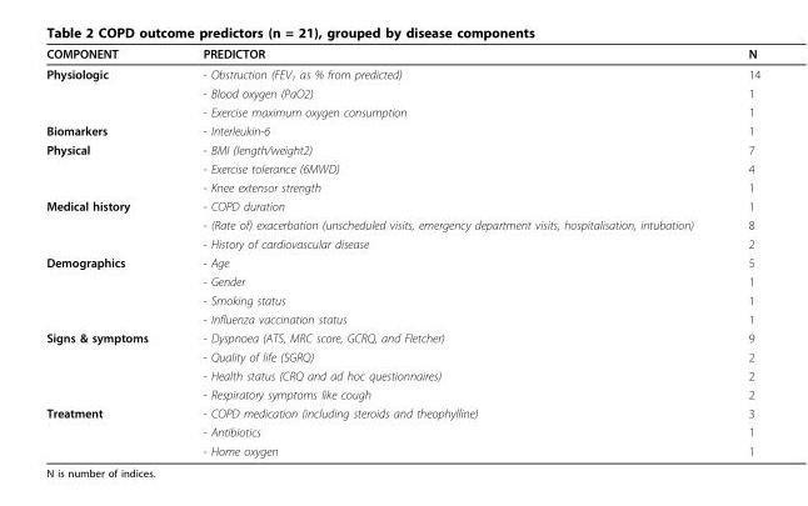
<table><thead><tr><td>COMPONENT</td><td>PREDICTOR</td><td>N</td></tr></thead><tbody><tr><td rowspan="3">Physiologic</td><td>- Obstruction (FEV<sub>1</sub> as % from predicted)</td><td>14</td></tr><tr><td>- Blood oxygen (PaO2)</td><td>1</td></tr><tr><td>- Exercise maximum oxygen consumption</td><td>1</td></tr><tr><td>Biomarkers</td><td>- Interleukin-6</td><td>1</td></tr><tr><td rowspan="3">Physical</td><td>- BMI (length/weight2)</td><td>7</td></tr><tr><td>- Exercise tolerance (6MWD)</td><td>4</td></tr><tr><td>- Knee extensor strength</td><td>1</td></tr><tr><td rowspan="3">Medical history</td><td>- COPD duration</td><td>1</td></tr><tr><td>- (Rate of) exacerbation (unscheduled visits, emergency department visits, hospitalisation, intubation)</td><td>8</td></tr><tr><td>- History of cardiovascular disease</td><td>2</td></tr><tr><td rowspan="4">Demographics</td><td>- Age</td><td>5</td></tr><tr><td>- Gender</td><td>1</td></tr><tr><td>- Smoking status</td><td>1</td></tr><tr><td>- Influenza vaccination status</td><td>1</td></tr><tr><td rowspan="4">Signs &amp; symptoms</td><td>- Dyspnoea (ATS, MRC score, GCRQ, and Fletcher)</td><td>9</td></tr><tr><td>- Quality of life (SGRQ)</td><td>2</td></tr><tr><td>- Health status (CRQ and ad hoc questionnaires)</td><td>2</td></tr><tr><td>- Respiratory symptoms like cough</td><td>2</td></tr><tr><td rowspan="3">Treatment</td><td>- COPD medication (including steroids and theophylline)</td><td>3</td></tr><tr><td>- Antibiotics</td><td>1</td></tr><tr><td>- Home oxygen</td><td>1</td></tr></tbody></table>